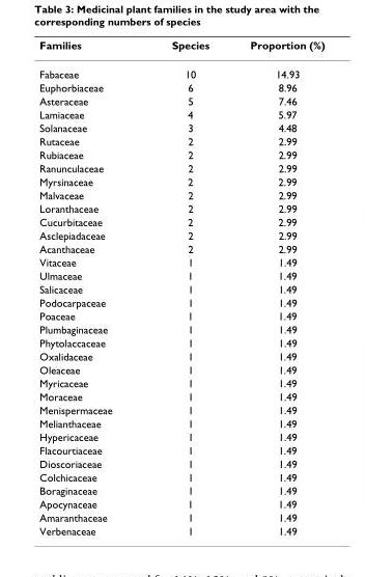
<table><thead><tr><td>Families</td><td>Species</td><td>Proportion (%)</td></tr></thead><tbody><tr><td>Fabaceae</td><td>10</td><td>14.93</td></tr><tr><td>Euphorbiaceae</td><td>6</td><td>8.96</td></tr><tr><td>Asteraceae</td><td>5</td><td>7.46</td></tr><tr><td>Lamiaceae</td><td>4</td><td>5.97</td></tr><tr><td>Solanaceae</td><td>3</td><td>4.48</td></tr><tr><td>Rutaceae</td><td>2</td><td>2.99</td></tr><tr><td>Rubiaceae</td><td>2</td><td>2.99</td></tr><tr><td>Ranunculaceae</td><td>2</td><td>2.99</td></tr><tr><td>Myrsinaceae</td><td>2</td><td>2.99</td></tr><tr><td>Malvaceae</td><td>2</td><td>2.99</td></tr><tr><td>Loranthaceae</td><td>2</td><td>2.99</td></tr><tr><td>Cucurbitaceae</td><td>2</td><td>2.99</td></tr><tr><td>Asclepiadaceae</td><td>2</td><td>2.99</td></tr><tr><td>Acanthaceae</td><td>2</td><td>2.99</td></tr><tr><td>Vitaceae</td><td>1</td><td>1.49</td></tr><tr><td>Ulmaceae</td><td>1</td><td>1.49</td></tr><tr><td>Salicaceae</td><td>1</td><td>1.49</td></tr><tr><td>Podocarpaceae</td><td>1</td><td>1.49</td></tr><tr><td>Poaceae</td><td>1</td><td>1.49</td></tr><tr><td>Plumbaginaceae</td><td>1</td><td>1.49</td></tr><tr><td>Phytolaccaceae</td><td>1</td><td>1.49</td></tr><tr><td>Oxalidaceae</td><td>1</td><td>1.49</td></tr><tr><td>Oleaceae</td><td>1</td><td>1.49</td></tr><tr><td>Myricaceae</td><td>1</td><td>1.49</td></tr><tr><td>Moraceae</td><td>1</td><td>1.49</td></tr><tr><td>Menispermaceae</td><td>1</td><td>1.49</td></tr><tr><td>Melianthaceae</td><td>1</td><td>1.49</td></tr><tr><td>Hypericaceae</td><td>1</td><td>1.49</td></tr><tr><td>Flacourtiaceae</td><td>1</td><td>1.49</td></tr><tr><td>Dioscoriaceae</td><td>1</td><td>1.49</td></tr><tr><td>Colchicaceae</td><td>1</td><td>1.49</td></tr><tr><td>Boraginaceae</td><td>1</td><td>1.49</td></tr><tr><td>Apocynaceae</td><td>1</td><td>1.49</td></tr><tr><td>Amaranthaceae</td><td>1</td><td>1.49</td></tr><tr><td>Verbenaceae</td><td>1</td><td>1.49</td></tr></tbody></table>